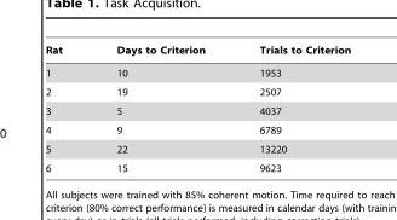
<table><thead><tr><td>Rat</td><td>Days to Criterion</td><td>Trials to Criterion</td></tr></thead><tbody><tr><td>1</td><td>10</td><td>1953</td></tr><tr><td>2</td><td>19</td><td>2507</td></tr><tr><td>3</td><td>5</td><td>4037</td></tr><tr><td>4</td><td>9</td><td>6789</td></tr><tr><td>5</td><td>22</td><td>13220</td></tr><tr><td>6</td><td>15</td><td>9623</td></tr></tbody></table>